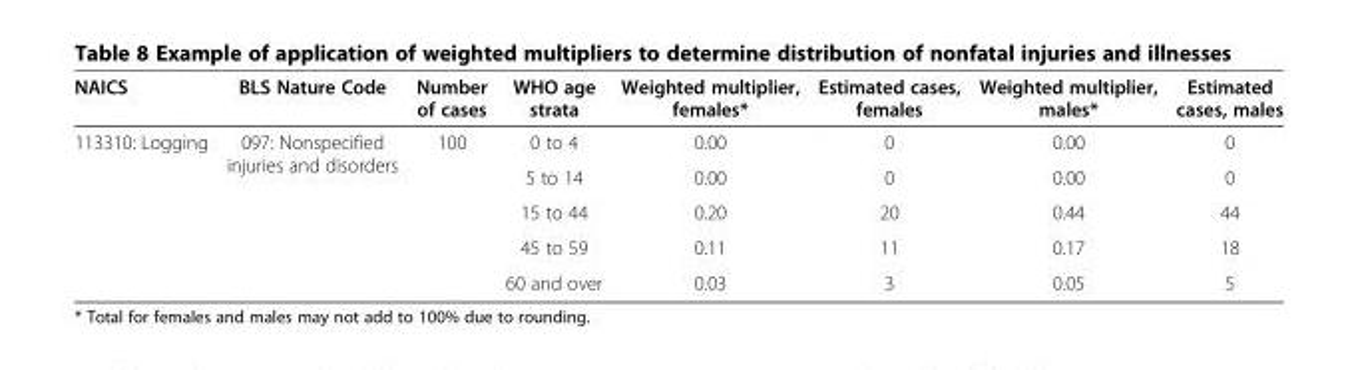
<table><thead><tr><td>NAICS</td><td>BLS Nature Code</td><td>Number of cases</td><td>WHO age strata</td><td>Weighted multiplier, females*</td><td>Estimated cases, females</td><td>Weighted multiplier, males*</td><td>Estimated cases, males</td></tr></thead><tbody><tr><td rowspan="5">113310: Logging</td><td rowspan="4">097: Nonspecified injuries and disorders</td><td rowspan="4">100</td><td>0 to 4</td><td>0.00</td><td>0</td><td>0.00</td><td>0</td></tr><tr><td>5 to 14</td><td>0.00</td><td>0</td><td>0.00</td><td>0</td></tr><tr><td>15 to 44</td><td>0.20</td><td>20</td><td>0.44</td><td>44</td></tr><tr><td>45 to 59</td><td>0.11</td><td>11</td><td>0.17</td><td>18</td></tr><tr><td></td><td></td><td>60 and over</td><td>0.03</td><td>3</td><td>0.05</td><td>5</td></tr></tbody></table>